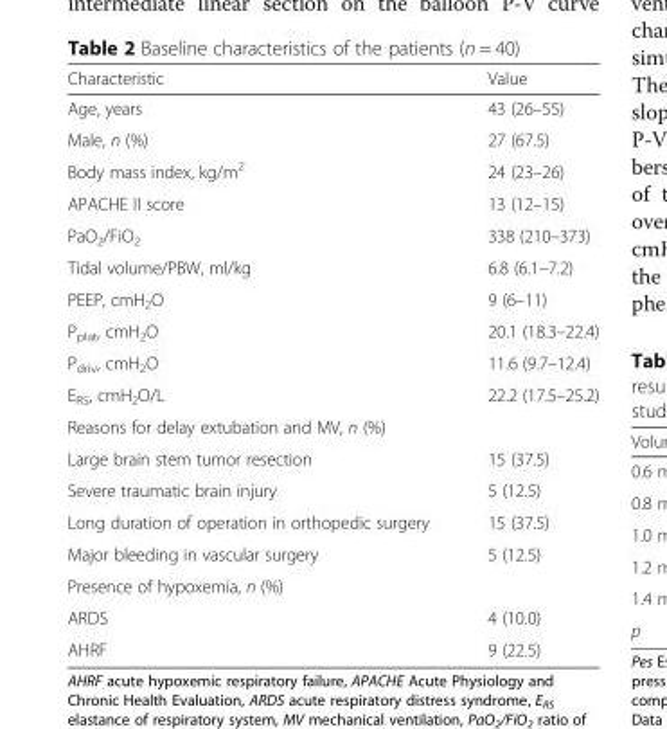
<table><thead><tr><td>Characteristic</td><td>Value</td></tr></thead><tbody><tr><td>Age, years</td><td>43 (26–55)</td></tr><tr><td>Male, n (%)</td><td>27 (67.5)</td></tr><tr><td>Body mass index, kg/m<sup>2</sup></td><td>24 (23–26)</td></tr><tr><td>APACHE II score</td><td>13 (12–15)</td></tr><tr><td>PaO<sub>2</sub>/FiO<sub>2</sub></td><td>338 (210–373)</td></tr><tr><td>Tidal volume/PBW, ml/kg</td><td>6.8 (6.1–7.2)</td></tr><tr><td>PEEP, cmH<sub>2</sub>O</td><td>9 (6–11)</td></tr><tr><td>P<sub>plat</sub>, cmH<sub>2</sub>O</td><td>20.1 (18.3–22.4)</td></tr><tr><td>P<sub>driv</sub>, cmH<sub>2</sub>O</td><td>11.6 (9.7–12.4)</td></tr><tr><td>E<sub>RS</sub>, cmH<sub>2</sub>O/L</td><td>22.2 (17.5–25.2)</td></tr><tr><td colspan="2">Reasons for delay extubation and MV, n (%)</td></tr><tr><td>Large brain stem tumor resection</td><td>15 (37.5)</td></tr><tr><td>Severe traumatic brain injury</td><td>5 (12.5)</td></tr><tr><td>Long duration of operation in orthopedic surgery</td><td>15 (37.5)</td></tr><tr><td>Major bleeding in vascular surgery</td><td>5 (12.5)</td></tr><tr><td colspan="2">Presence of hypoxemia, n (%)</td></tr><tr><td>ARDS</td><td>4 (10.0)</td></tr><tr><td>AHRF</td><td>9 (22.5)</td></tr></tbody></table>